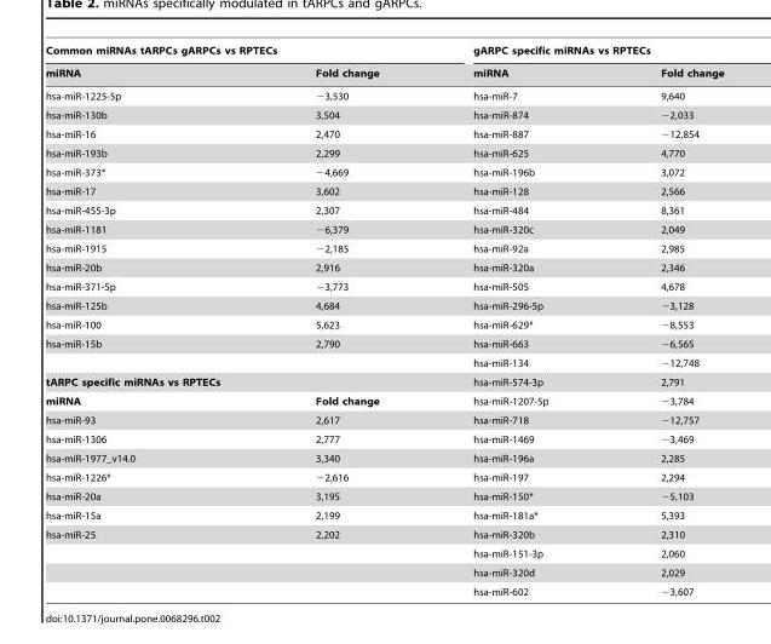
<table><thead><tr><td colspan="2">Common miRNAs tARPCs gARPCs vs RPTECs</td><td colspan="2">gARPC specific miRNAs vs RPTECs</td></tr><tr><td>miRNA</td><td>Fold change</td><td>miRNA</td><td>Fold change</td></tr></thead><tbody><tr><td>hsa-miR-1225-5p</td><td>−3,530</td><td>hsa-miR-7</td><td>9,640</td></tr><tr><td>hsa-miR-130b</td><td>3,504</td><td>hsa-miR-874</td><td>−2,033</td></tr><tr><td>hsa-miR-16</td><td>2,470</td><td>hsa-miR-887</td><td>−12,854</td></tr><tr><td>hsa-miR-193b</td><td>2,299</td><td>hsa-miR-625</td><td>4,770</td></tr><tr><td>hsa-miR-373*</td><td>−4,669</td><td>hsa-miR-196b</td><td>3,072</td></tr><tr><td>hsa-miR-17</td><td>3,602</td><td>hsa-miR-128</td><td>2,566</td></tr><tr><td>hsa-miR-455-3p</td><td>2,307</td><td>hsa-miR-484</td><td>8,361</td></tr><tr><td>hsa-miR-1181</td><td>−6,379</td><td>hsa-miR-320c</td><td>2,049</td></tr><tr><td>hsa-miR-1915</td><td>−2,185</td><td>hsa-miR-92a</td><td>2,985</td></tr><tr><td>hsa-miR-20b</td><td>2,916</td><td>hsa-miR-320a</td><td>2,346</td></tr><tr><td>hsa-miR-371-5p</td><td>−3,773</td><td>hsa-miR-505</td><td>4,678</td></tr><tr><td>hsa-miR-125b</td><td>4,684</td><td>hsa-miR-296-5p</td><td>−3,128</td></tr><tr><td>hsa-miR-100</td><td>5,623</td><td>hsa-miR-629*</td><td>−8,553</td></tr><tr><td rowspan="2">hsa-miR-15b</td><td>2,790</td><td>hsa-miR-663</td><td>−6,565</td></tr><tr><td></td><td>hsa-miR-134</td><td>−12,748</td></tr><tr><td colspan="2">tARPC specific miRNAs vs RPTECs</td><td>hsa-miR-574-3p</td><td>2,791</td></tr><tr><td>miRNA</td><td>Fold change</td><td>hsa-miR-1207-5p</td><td>−3,784</td></tr><tr><td>hsa-miR-93</td><td>2,617</td><td>hsa-miR-718</td><td>−12,757</td></tr><tr><td>hsa-miR-1306</td><td>2,777</td><td>hsa-miR-1469</td><td>−3,469</td></tr><tr><td>hsa-miR-1977_v14.0</td><td>3,340</td><td>hsa-miR-196a</td><td>2,285</td></tr><tr><td>hsa-miR-1226*</td><td>−2,616</td><td>hsa-miR-197</td><td>2,294</td></tr><tr><td>hsa-miR-20a</td><td>3,195</td><td>hsa-miR-150*</td><td>−5,103</td></tr><tr><td>hsa-miR-15a</td><td>2,199</td><td>hsa-miR-181a*</td><td>5,393</td></tr><tr><td rowspan="4">hsa-miR-25</td><td>2,202</td><td>hsa-miR-320b</td><td>2,310</td></tr><tr><td></td><td>hsa-miR-151-3p</td><td>2,060</td></tr><tr><td></td><td>hsa-miR-320d</td><td>2,029</td></tr><tr><td></td><td>hsa-miR-602</td><td>−3,607</td></tr></tbody></table>